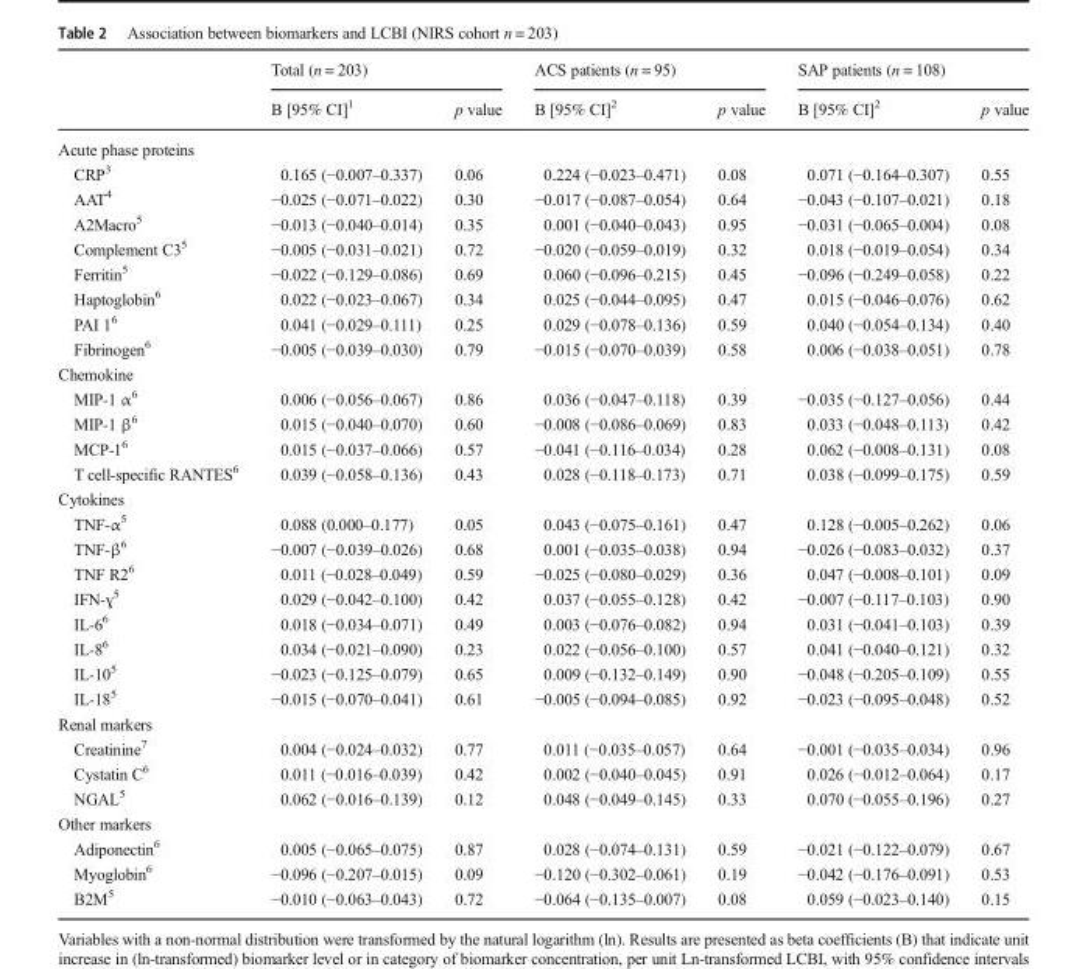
<table><thead><tr><td rowspan="2"></td><td colspan="2">Total (n = 203)</td><td colspan="2">ACS patients (n = 95)</td><td colspan="2">SAP patients (n = 108)</td></tr><tr><td>B [95% CI]<sup>1</sup></td><td>p value</td><td>B [95% CI]<sup>2</sup></td><td>p value</td><td>B [95% CI]<sup>2</sup></td><td>p value</td></tr></thead><tbody><tr><td colspan="7">Acute phase proteins</td></tr><tr><td>CRP<sup>3</sup></td><td>0.165 (−0.007–0.337)</td><td>0.06</td><td>0.224 (−0.023–0.471)</td><td>0.08</td><td>0.071 (−0.164–0.307)</td><td>0.55</td></tr><tr><td>AAT<sup>4</sup></td><td>−0.025 (−0.071–0.022)</td><td>0.30</td><td>−0.017 (−0.087–0.054)</td><td>0.64</td><td>−0.043 (−0.107–0.021)</td><td>0.18</td></tr><tr><td>A2Macro<sup>5</sup></td><td>−0.013 (−0.040–0.014)</td><td>0.35</td><td>0.001 (−0.040–0.043)</td><td>0.95</td><td>−0.031 (−0.065–0.004)</td><td>0.08</td></tr><tr><td>Complement C3<sup>5</sup></td><td>−0.005 (−0.031–0.021)</td><td>0.72</td><td>−0.020 (−0.059–0.019)</td><td>0.32</td><td>0.018 (−0.019–0.054)</td><td>0.34</td></tr><tr><td>Ferritin<sup>5</sup></td><td>−0.022 (−0.129–0.086)</td><td>0.69</td><td>0.060 (−0.096–0.215)</td><td>0.45</td><td>−0.096 (−0.249–0.058)</td><td>0.22</td></tr><tr><td>Haptoglobin<sup>6</sup></td><td>0.022 (−0.023–0.067)</td><td>0.34</td><td>0.025 (−0.044–0.095)</td><td>0.47</td><td>0.015 (−0.046–0.076)</td><td>0.62</td></tr><tr><td>PAI 1<sup>6</sup></td><td>0.041 (−0.029–0.111)</td><td>0.25</td><td>0.029 (−0.078–0.136)</td><td>0.59</td><td>0.040 (−0.054–0.134)</td><td>0.40</td></tr><tr><td>Fibrinogen<sup>6</sup></td><td>−0.005 (−0.039–0.030)</td><td>0.79</td><td>−0.015 (−0.070–0.039)</td><td>0.58</td><td>0.006 (−0.038–0.051)</td><td>0.78</td></tr><tr><td colspan="7">Chemokine</td></tr><tr><td>MIP-1 α<sup>6</sup></td><td>0.006 (−0.056–0.067)</td><td>0.86</td><td>0.036 (−0.047–0.118)</td><td>0.39</td><td>−0.035 (−0.127–0.056)</td><td>0.44</td></tr><tr><td>MIP-1 β<sup>6</sup></td><td>0.015 (−0.040–0.070)</td><td>0.60</td><td>−0.008 (−0.086–0.069)</td><td>0.83</td><td>0.033 (−0.048–0.113)</td><td>0.42</td></tr><tr><td>MCP-1<sup>6</sup></td><td>0.015 (−0.037–0.066)</td><td>0.57</td><td>−0.041 (−0.116–0.034)</td><td>0.28</td><td>0.062 (−0.008–0.131)</td><td>0.08</td></tr><tr><td>T cell-specific RANTES<sup>6</sup></td><td>0.039 (−0.058–0.136)</td><td>0.43</td><td>0.028 (−0.118–0.173)</td><td>0.71</td><td>0.038 (−0.099–0.175)</td><td>0.59</td></tr><tr><td colspan="7">Cytokines</td></tr><tr><td>TNF-α<sup>5</sup></td><td>0.088 (0.000–0.177)</td><td>0.05</td><td>0.043 (−0.075–0.161)</td><td>0.47</td><td>0.128 (−0.005–0.262)</td><td>0.06</td></tr><tr><td>TNF-β<sup>6</sup></td><td>−0.007 (−0.039–0.026)</td><td>0.68</td><td>0.001 (−0.035–0.038)</td><td>0.94</td><td>−0.026 (−0.083–0.032)</td><td>0.37</td></tr><tr><td>TNF R2<sup>6</sup></td><td>0.011 (−0.028–0.049)</td><td>0.59</td><td>−0.025 (−0.080–0.029)</td><td>0.36</td><td>0.047 (−0.008–0.101)</td><td>0.09</td></tr><tr><td>IFN-ɣ<sup>5</sup></td><td>0.029 (−0.042–0.100)</td><td>0.42</td><td>0.037 (−0.055–0.128)</td><td>0.42</td><td>−0.007 (−0.117–0.103)</td><td>0.90</td></tr><tr><td>IL-6<sup>6</sup></td><td>0.018 (−0.034–0.071)</td><td>0.49</td><td>0.003 (−0.076–0.082)</td><td>0.94</td><td>0.031 (−0.041–0.103)</td><td>0.39</td></tr><tr><td>IL-8<sup>6</sup></td><td>0.034 (−0.021–0.090)</td><td>0.23</td><td>0.022 (−0.056–0.100)</td><td>0.57</td><td>0.041 (−0.040–0.121)</td><td>0.32</td></tr><tr><td>IL-10<sup>5</sup></td><td>−0.023 (−0.125–0.079)</td><td>0.65</td><td>0.009 (−0.132–0.149)</td><td>0.90</td><td>−0.048 (−0.205–0.109)</td><td>0.55</td></tr><tr><td>IL-18<sup>5</sup></td><td>−0.015 (−0.070–0.041)</td><td>0.61</td><td>−0.005 (−0.094–0.085)</td><td>0.92</td><td>−0.023 (−0.095–0.048)</td><td>0.52</td></tr><tr><td colspan="7">Renal markers</td></tr><tr><td>Creatinine<sup>7</sup></td><td>0.004 (−0.024–0.032)</td><td>0.77</td><td>0.011 (−0.035–0.057)</td><td>0.64</td><td>−0.001 (−0.035–0.034)</td><td>0.96</td></tr><tr><td>Cystatin C<sup>6</sup></td><td>0.011 (−0.016–0.039)</td><td>0.42</td><td>0.002 (−0.040–0.045)</td><td>0.91</td><td>0.026 (−0.012–0.064)</td><td>0.17</td></tr><tr><td>NGAL<sup>5</sup></td><td>0.062 (−0.016–0.139)</td><td>0.12</td><td>0.048 (−0.049–0.145)</td><td>0.33</td><td>0.070 (−0.055–0.196)</td><td>0.27</td></tr><tr><td colspan="7">Other markers</td></tr><tr><td>Adiponectin<sup>6</sup></td><td>0.005 (−0.065–0.075)</td><td>0.87</td><td>0.028 (−0.074–0.131)</td><td>0.59</td><td>−0.021 (−0.122–0.079)</td><td>0.67</td></tr><tr><td>Myoglobin<sup>6</sup></td><td>−0.096 (−0.207–0.015)</td><td>0.09</td><td>−0.120 (−0.302–0.061)</td><td>0.19</td><td>−0.042 (−0.176–0.091)</td><td>0.53</td></tr><tr><td>B2M<sup>5</sup></td><td>−0.010 (−0.063–0.043)</td><td>0.72</td><td>−0.064 (−0.135–0.007)</td><td>0.08</td><td>0.059 (−0.023–0.140)</td><td>0.15</td></tr></tbody></table>